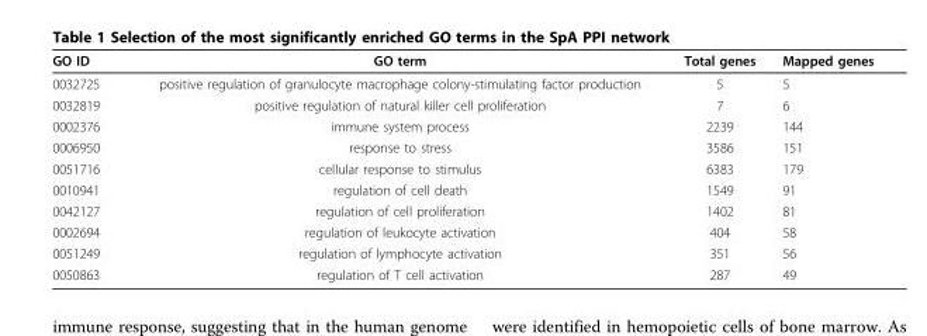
<table><thead><tr><td>GO ID</td><td>GO term</td><td>Total genes</td><td>Mapped genes</td></tr></thead><tbody><tr><td>0032725</td><td>positive regulation of granulocyte macrophage colony-stimulating factor production</td><td>5</td><td>5</td></tr><tr><td>0032819</td><td>positive regulation of natural killer cell proliferation</td><td>7</td><td>6</td></tr><tr><td>0002376</td><td>immune system process</td><td>2239</td><td>144</td></tr><tr><td>0006950</td><td>response to stress</td><td>3586</td><td>151</td></tr><tr><td>0051716</td><td>cellular response to stimulus</td><td>6383</td><td>179</td></tr><tr><td>0010941</td><td>regulation of cell death</td><td>1549</td><td>91</td></tr><tr><td>0042127</td><td>regulation of cell proliferation</td><td>1402</td><td>81</td></tr><tr><td>0002694</td><td>regulation of leukocyte activation</td><td>404</td><td>58</td></tr><tr><td>0051249</td><td>regulation of lymphocyte activation</td><td>351</td><td>56</td></tr><tr><td>0050863</td><td>regulation of T cell activation</td><td>287</td><td>49</td></tr></tbody></table>